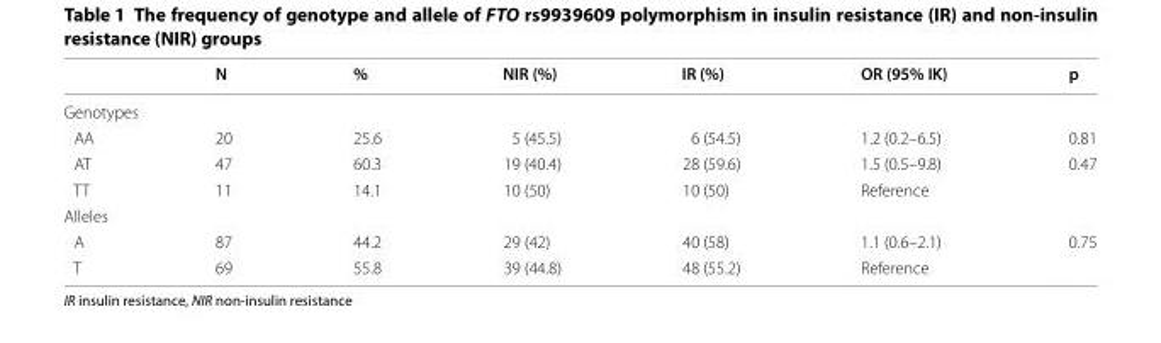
<table><thead><tr><td></td><td>N</td><td>%</td><td>NIR (%)</td><td>IR (%)</td><td>OR (95% IK)</td><td>p</td></tr></thead><tbody><tr><td colspan="7">Genotypes</td></tr><tr><td>AA</td><td>20</td><td>25.6</td><td>5 (45.5)</td><td>6 (54.5)</td><td>1.2 (0.2–6.5)</td><td>0.81</td></tr><tr><td>AT</td><td>47</td><td>60.3</td><td>19 (40.4)</td><td>28 (59.6)</td><td>1.5 (0.5–9.8)</td><td rowspan="2">0.47</td></tr><tr><td>TT</td><td>11</td><td>14.1</td><td>10 (50)</td><td>10 (50)</td><td>Reference</td></tr><tr><td colspan="7">Alleles</td></tr><tr><td>A</td><td>87</td><td>44.2</td><td>29 (42)</td><td>40 (58)</td><td>1.1 (0.6–2.1)</td><td>0.75</td></tr><tr><td>T</td><td>69</td><td>55.8</td><td>39 (44.8)</td><td>48 (55.2)</td><td>Reference</td><td></td></tr></tbody></table>